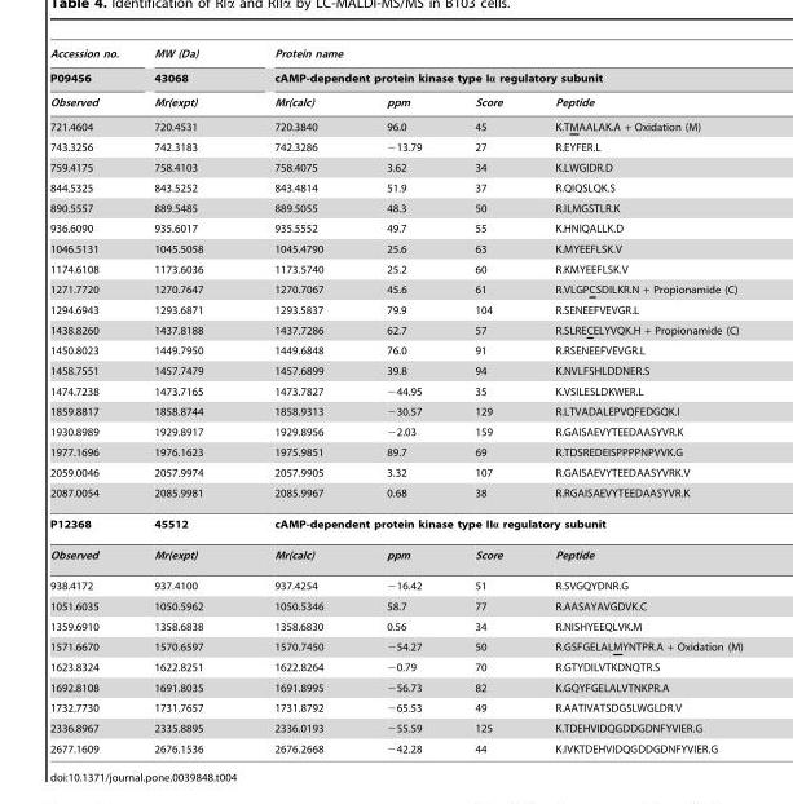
<table><thead><tr><td rowspan="3">Accession no. P09456 Observed</td><td rowspan="3">MW (Da) 43068 Mr(expt)</td><td rowspan="2" colspan="4">Protein name cAMP-dependent protein kinase type Iα regulatory subunit</td></tr><tr></tr><tr><td>Mr(calc)</td><td>ppm</td><td>Score</td><td>Peptide</td></tr></thead><tbody><tr><td>721.4604</td><td>720.4531</td><td>720.3840</td><td>96.0</td><td>45</td><td>K.TMAALAK.A + Oxidation (M)</td></tr><tr><td>743.3256</td><td>742.3183</td><td>742.3286</td><td>−13.79</td><td>27</td><td>R.EYFER.L</td></tr><tr><td>759.4175</td><td>758.4103</td><td>758.4075</td><td>3.62</td><td>34</td><td>K.LWGIDR.D</td></tr><tr><td>844.5325</td><td>843.5252</td><td>843.4814</td><td>51.9</td><td>37</td><td>R.QIQSLQK.S</td></tr><tr><td>890.5557</td><td>889.5485</td><td>889.5055</td><td>48.3</td><td>50</td><td>R.ILMGSTLR.K</td></tr><tr><td>936.6090</td><td>935.6017</td><td>935.5552</td><td>49.7</td><td>55</td><td>K.HNIQALLK.D</td></tr><tr><td>1046.5131</td><td>1045.5058</td><td>1045.4790</td><td>25.6</td><td>63</td><td>K.MYEEFLSK.V</td></tr><tr><td>1174.6108</td><td>1173.6036</td><td>1173.5740</td><td>25.2</td><td>60</td><td>R.KMYEEFLSK.V</td></tr><tr><td>1271.7720</td><td>1270.7647</td><td>1270.7067</td><td>45.6</td><td>61</td><td>R.VLGPCSDILKR.N + Propionamide (C)</td></tr><tr><td>1294.6943</td><td>1293.6871</td><td>1293.5837</td><td>79.9</td><td>104</td><td>R.SENEEFVEVGR.L</td></tr><tr><td>1438.8260</td><td>1437.8188</td><td>1437.7286</td><td>62.7</td><td>57</td><td>R.SLRECELYVQK.H + Propionamide (C)</td></tr><tr><td>1450.8023</td><td>1449.7950</td><td>1449.6848</td><td>76.0</td><td>91</td><td>R.RSENEEFVEVGR.L</td></tr><tr><td>1458.7551</td><td>1457.7479</td><td>1457.6899</td><td>39.8</td><td>94</td><td>K.NVLFSHLDDNER.S</td></tr><tr><td>1474.7238</td><td>1473.7165</td><td>1473.7827</td><td>−44.95</td><td>35</td><td>K.VSILESLDKWER.L</td></tr><tr><td>1859.8817</td><td>1858.8744</td><td>1858.9313</td><td>−30.57</td><td>129</td><td>R.LTVADALEPVQFEDGQK.I</td></tr><tr><td>1930.8989</td><td>1929.8917</td><td>1929.8956</td><td>−2.03</td><td>159</td><td>R.GAISAEVYTEEDAASYVR.K</td></tr><tr><td>1977.1696</td><td>1976.1623</td><td>1975.9851</td><td>89.7</td><td>69</td><td>R.TDSREDEISPPPPNPVVK.G</td></tr><tr><td>2059.0046</td><td>2057.9974</td><td>2057.9905</td><td>3.32</td><td>107</td><td>R.GAISAEVYTEEDAASYVRK.V</td></tr><tr><td>2087.0054</td><td>2085.9981</td><td>2085.9967</td><td>0.68</td><td>38</td><td>R.RGAISAEVYTEEDAASYVR.K</td></tr><tr><td>P12368</td><td>45512</td><td colspan="4">cAMP-dependent protein kinase type IIα regulatory subunit</td></tr><tr><td>Observed</td><td>Mr(expt)</td><td>Mr(calc)</td><td>ppm</td><td>Score</td><td>Peptide</td></tr><tr><td>938.4172</td><td>937.4100</td><td>937.4254</td><td>−16.42</td><td>51</td><td>R.SVGQYDNR.G</td></tr><tr><td>1051.6035</td><td>1050.5962</td><td>1050.5346</td><td>58.7</td><td>77</td><td>R.AASAYAVGDVK.C</td></tr><tr><td>1359.6910</td><td>1358.6838</td><td>1358.6830</td><td>0.56</td><td>34</td><td>R.NISHYEEQLVK.M</td></tr><tr><td>1571.6670</td><td>1570.6597</td><td>1570.7450</td><td>−54.27</td><td>50</td><td>R.GSFGELALMYNTPR.A + Oxidation (M)</td></tr><tr><td>1623.8324</td><td>1622.8251</td><td>1622.8264</td><td>−0.79</td><td>70</td><td>R.GTYDILVTKDNQTR.S</td></tr><tr><td>1692.8108</td><td>1691.8035</td><td>1691.8995</td><td>−56.73</td><td>82</td><td>K.GQYFGELALVTNKPR.A</td></tr><tr><td>1732.7730</td><td>1731.7657</td><td>1731.8792</td><td>−65.53</td><td>49</td><td>R.AATIVATSDGSLWGLDR.V</td></tr><tr><td>2336.8967</td><td>2335.8895</td><td>2336.0193</td><td>−55.59</td><td>125</td><td>K.TDEHVIDQGDDGDNFYVIER.G</td></tr><tr><td>2677.1609</td><td>2676.1536</td><td>2676.2668</td><td>−42.28</td><td>44</td><td>K.IVKTDEHVIDQGDDGDNFYVIER.G</td></tr></tbody></table>